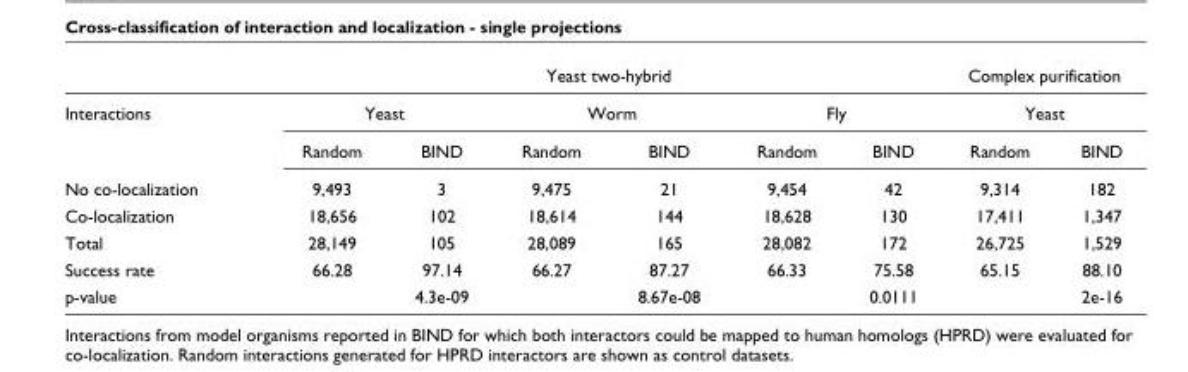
<table><thead><tr><td rowspan="3">Interactions</td><td colspan="6">Yeast two-hybrid</td><td rowspan="2" colspan="2">Complex purification Yeast</td></tr><tr><td colspan="2">Yeast</td><td colspan="2">Worm</td><td colspan="2">Fly</td></tr><tr><td>Random</td><td>BIND</td><td>Random</td><td>BIND</td><td>Random</td><td>BIND</td><td>Random</td><td>BIND</td></tr></thead><tbody><tr><td>No co-localization</td><td>9,493</td><td>3</td><td>9,475</td><td>21</td><td>9,454</td><td>42</td><td>9,314</td><td>182</td></tr><tr><td>Co-localization</td><td>18,656</td><td>102</td><td>18,614</td><td>144</td><td>18,628</td><td>130</td><td>17,411</td><td>1,347</td></tr><tr><td>Total</td><td>28,149</td><td>105</td><td>28,089</td><td>165</td><td>28,082</td><td>172</td><td>26,725</td><td>1,529</td></tr><tr><td>Success rate</td><td>66.28</td><td>97.14</td><td>66.27</td><td>87.27</td><td>66.33</td><td>75.58</td><td>65.15</td><td>88.10</td></tr><tr><td>p-value</td><td></td><td>4.3e-09</td><td></td><td>8.67e-08</td><td></td><td>0.0111</td><td></td><td>2e-16</td></tr></tbody></table>